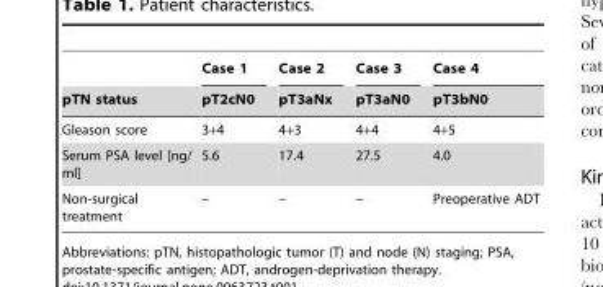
<table><thead><tr><td rowspan="2">pTN status</td><td rowspan="2">Case 1 pT2cN0</td><td rowspan="2">Case 2 pT3aNx</td><td rowspan="2">Case 3 pT3aN0</td><td rowspan="2">Case 4 pT3bN0</td></tr><tr></tr></thead><tbody><tr><td>Gleason score</td><td>3+4</td><td>4+3</td><td>4+4</td><td>4+5</td></tr><tr><td>Serum PSA level [ng/ ml]</td><td>5.6</td><td>17.4</td><td>27.5</td><td>4.0</td></tr><tr><td>Non-surgical treatment</td><td>–</td><td>–</td><td>–</td><td>Preoperative ADT</td></tr></tbody></table>